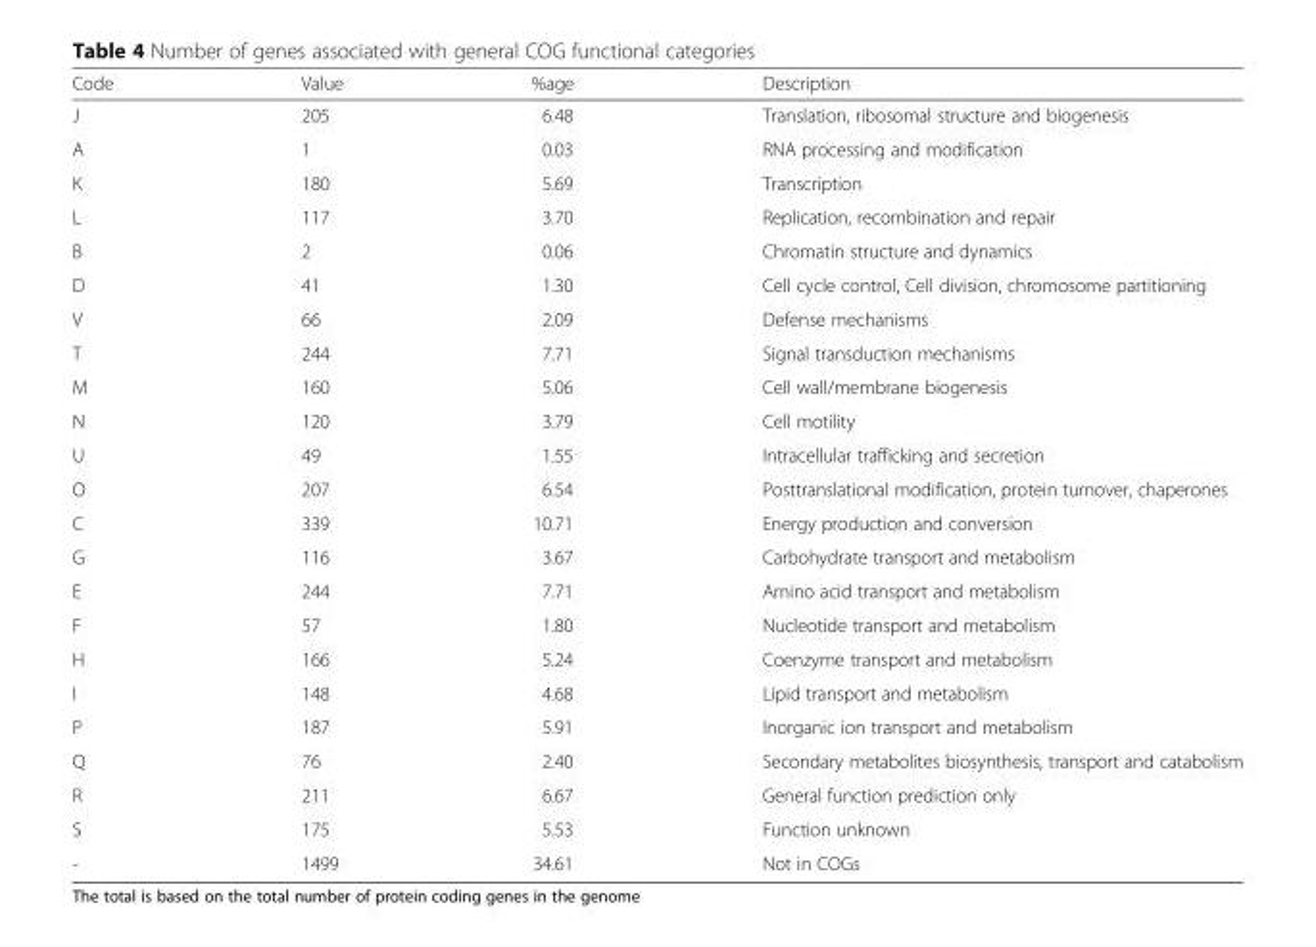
<table><thead><tr><td>Code</td><td>Value</td><td>%age</td><td>Description</td></tr></thead><tbody><tr><td>J</td><td>205</td><td>6.48</td><td>Translation, ribosomal structure and biogenesis</td></tr><tr><td>A</td><td>1</td><td>0.03</td><td>RNA processing and modification</td></tr><tr><td>K</td><td>180</td><td>5.69</td><td>Transcription</td></tr><tr><td>L</td><td>117</td><td>3.70</td><td>Replication, recombination and repair</td></tr><tr><td>B</td><td>2</td><td>0.06</td><td>Chromatin structure and dynamics</td></tr><tr><td>D</td><td>41</td><td>1.30</td><td>Cell cycle control, Cell division, chromosome partitioning</td></tr><tr><td>V</td><td>66</td><td>2.09</td><td>Defense mechanisms</td></tr><tr><td>T</td><td>244</td><td>7.71</td><td>Signal transduction mechanisms</td></tr><tr><td>M</td><td>160</td><td>5.06</td><td>Cell wall/membrane biogenesis</td></tr><tr><td>N</td><td>120</td><td>3.79</td><td>Cell motility</td></tr><tr><td>U</td><td>49</td><td>1.55</td><td>Intracellular trafficking and secretion</td></tr><tr><td>O</td><td>207</td><td>6.54</td><td>Posttranslational modification, protein turnover, chaperones</td></tr><tr><td>C</td><td>339</td><td>10.71</td><td>Energy production and conversion</td></tr><tr><td>G</td><td>116</td><td>3.67</td><td>Carbohydrate transport and metabolism</td></tr><tr><td>E</td><td>244</td><td>7.71</td><td>Amino acid transport and metabolism</td></tr><tr><td>F</td><td>57</td><td>1.80</td><td>Nucleotide transport and metabolism</td></tr><tr><td>H</td><td>166</td><td>5.24</td><td>Coenzyme transport and metabolism</td></tr><tr><td>I</td><td>148</td><td>4.68</td><td>Lipid transport and metabolism</td></tr><tr><td>P</td><td>187</td><td>5.91</td><td>Inorganic ion transport and metabolism</td></tr><tr><td>Q</td><td>76</td><td>2.40</td><td>Secondary metabolites biosynthesis, transport and catabolism</td></tr><tr><td>R</td><td>211</td><td>6.67</td><td>General function prediction only</td></tr><tr><td>S</td><td>175</td><td>5.53</td><td>Function unknown</td></tr><tr><td>-</td><td>1499</td><td>34.61</td><td>Not in COGs</td></tr></tbody></table>